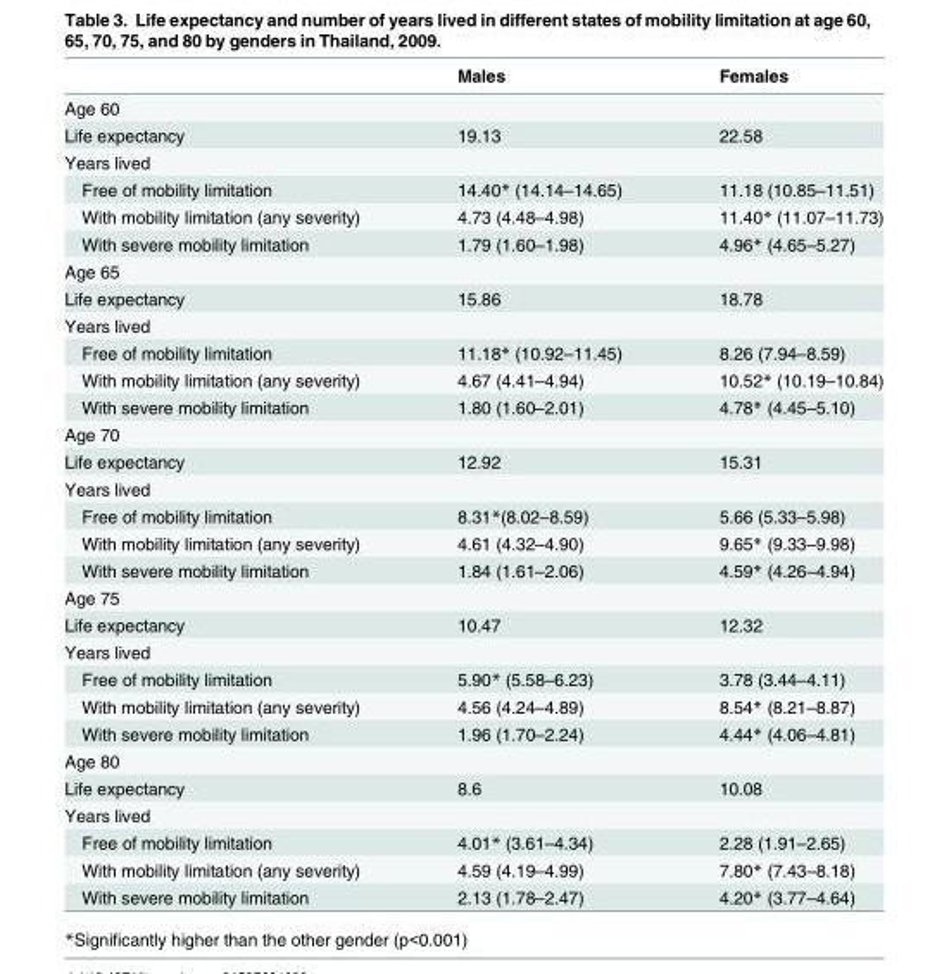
<table><thead><tr><td></td><td>Males</td><td>Females</td></tr></thead><tbody><tr><td colspan="3">Age 60</td></tr><tr><td>Life expectancy</td><td>19.13</td><td>22.58</td></tr><tr><td colspan="3">Years lived</td></tr><tr><td>Free of mobility limitation</td><td>14.40* (14.14–14.65)</td><td>11.18 (10.85–11.51)</td></tr><tr><td>With mobility limitation (any severity)</td><td>4.73 (4.48–4.98)</td><td>11.40* (11.07–11.73)</td></tr><tr><td>With severe mobility limitation</td><td>1.79 (1.60–1.98)</td><td>4.96* (4.65–5.27)</td></tr><tr><td colspan="3">Age 65</td></tr><tr><td>Life expectancy</td><td>15.86</td><td>18.78</td></tr><tr><td colspan="3">Years lived</td></tr><tr><td>Free of mobility limitation</td><td>11.18* (10.92–11.45)</td><td>8.26 (7.94–8.59)</td></tr><tr><td>With mobility limitation (any severity)</td><td>4.67 (4.41–4.94)</td><td>10.52* (10.19–10.84)</td></tr><tr><td>With severe mobility limitation</td><td>1.80 (1.60–2.01)</td><td>4.78* (4.45–5.10)</td></tr><tr><td colspan="3">Age 70</td></tr><tr><td>Life expectancy</td><td>12.92</td><td>15.31</td></tr><tr><td colspan="3">Years lived</td></tr><tr><td>Free of mobility limitation</td><td>8.31*(8.02–8.59)</td><td>5.66 (5.33–5.98)</td></tr><tr><td>With mobility limitation (any severity)</td><td>4.61 (4.32–4.90)</td><td>9.65* (9.33–9.98)</td></tr><tr><td>With severe mobility limitation</td><td>1.84 (1.61–2.06)</td><td>4.59* (4.26–4.94)</td></tr><tr><td colspan="3">Age 75</td></tr><tr><td>Life expectancy</td><td>10.47</td><td>12.32</td></tr><tr><td colspan="3">Years lived</td></tr><tr><td>Free of mobility limitation</td><td>5.90* (5.58–6.23)</td><td>3.78 (3.44–4.11)</td></tr><tr><td>With mobility limitation (any severity)</td><td>4.56 (4.24–4.89)</td><td>8.54* (8.21–8.87)</td></tr><tr><td>With severe mobility limitation</td><td>1.96 (1.70–2.24)</td><td>4.44* (4.06–4.81)</td></tr><tr><td colspan="3">Age 80</td></tr><tr><td>Life expectancy</td><td>8.6</td><td>10.08</td></tr><tr><td colspan="3">Years lived</td></tr><tr><td>Free of mobility limitation</td><td>4.01* (3.61–4.34)</td><td>2.28 (1.91–2.65)</td></tr><tr><td>With mobility limitation (any severity)</td><td>4.59 (4.19–4.99)</td><td>7.80* (7.43–8.18)</td></tr><tr><td>With severe mobility limitation</td><td>2.13 (1.78–2.47)</td><td>4.20* (3.77–4.64)</td></tr></tbody></table>